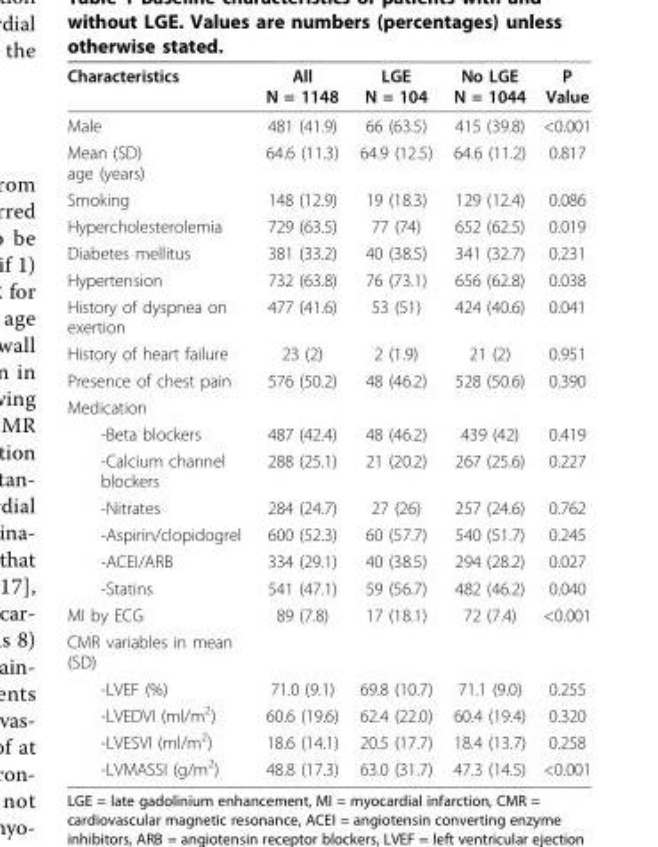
<table><thead><tr><td>Characteristics</td><td>All N = 1148</td><td>LGE N = 104</td><td>No LGE N = 1044</td><td>P Value</td></tr></thead><tbody><tr><td>Male</td><td>481 (41.9)</td><td>66 (63.5)</td><td>415 (39.8)</td><td>&lt;0.001</td></tr><tr><td>Mean (SD) age (years)</td><td>64.6 (11.3)</td><td>64.9 (12.5)</td><td>64.6 (11.2)</td><td>0.817</td></tr><tr><td>Smoking</td><td>148 (12.9)</td><td>19 (18.3)</td><td>129 (12.4)</td><td>0.086</td></tr><tr><td>Hypercholesterolemia</td><td>729 (63.5)</td><td>77 (74)</td><td>652 (62.5)</td><td>0.019</td></tr><tr><td>Diabetes mellitus</td><td>381 (33.2)</td><td>40 (38.5)</td><td>341 (32.7)</td><td>0.231</td></tr><tr><td>Hypertension</td><td>732 (63.8)</td><td>76 (73.1)</td><td>656 (62.8)</td><td>0.038</td></tr><tr><td>History of dyspnea on exertion</td><td>477 (41.6)</td><td>53 (51)</td><td>424 (40.6)</td><td>0.041</td></tr><tr><td>History of heart failure</td><td>23 (2)</td><td>2 (1.9)</td><td>21 (2)</td><td>0.951</td></tr><tr><td>Presence of chest pain</td><td>576 (50.2)</td><td>48 (46.2)</td><td>528 (50.6)</td><td>0.390</td></tr><tr><td colspan="5">Medication</td></tr><tr><td>-Beta blockers</td><td>487 (42.4)</td><td>48 (46.2)</td><td>439 (42)</td><td>0.419</td></tr><tr><td>-Calcium channel blockers</td><td>288 (25.1)</td><td>21 (20.2)</td><td>267 (25.6)</td><td>0.227</td></tr><tr><td>-Nitrates</td><td>284 (24.7)</td><td>27 (26)</td><td>257 (24.6)</td><td>0.762</td></tr><tr><td>-Aspirin/clopidogrel</td><td>600 (52.3)</td><td>60 (57.7)</td><td>540 (51.7)</td><td>0.245</td></tr><tr><td>-ACEI/ARB</td><td>334 (29.1)</td><td>40 (38.5)</td><td>294 (28.2)</td><td>0.027</td></tr><tr><td>-Statins</td><td>541 (47.1)</td><td>59 (56.7)</td><td>482 (46.2)</td><td>0.040</td></tr><tr><td>MI by ECG</td><td>89 (7.8)</td><td>17 (18.1)</td><td>72 (7.4)</td><td>&lt;0.001</td></tr><tr><td colspan="5">CMR variables in mean (SD)</td></tr><tr><td>-LVEF (%)</td><td>71.0 (9.1)</td><td>69.8 (10.7)</td><td>71.1 (9.0)</td><td>0.255</td></tr><tr><td>-LVEDVI (ml/m<sup>2</sup>)</td><td>60.6 (19.6)</td><td>62.4 (22.0)</td><td>60.4 (19.4)</td><td>0.320</td></tr><tr><td>-LVESVI (ml/m<sup>2</sup>)</td><td>18.6 (14.1)</td><td>20.5 (17.7)</td><td>18.4 (13.7)</td><td>0.258</td></tr><tr><td>-LVMASSI (g/m<sup>2</sup>)</td><td>48.8 (17.3)</td><td>63.0 (31.7)</td><td>47.3 (14.5)</td><td>&lt;0.001</td></tr></tbody></table>